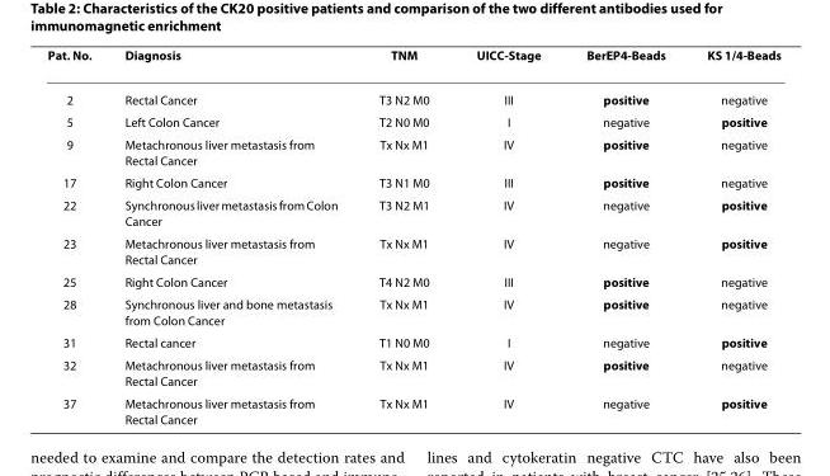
<table><thead><tr><td>Pat. No.</td><td>Diagnosis</td><td>TNM</td><td>UICC-Stage</td><td>BerEP4-Beads</td><td>KS 1/4-Beads</td></tr></thead><tbody><tr><td>2</td><td>Rectal Cancer</td><td>T3 N2 M0</td><td>III</td><td>positive</td><td>negative</td></tr><tr><td>5</td><td>Left Colon Cancer</td><td>T2 N0 M0</td><td>I</td><td>negative</td><td>positive</td></tr><tr><td>9</td><td>Metachronous liver metastasis from Rectal Cancer</td><td>Tx Nx M1</td><td>IV</td><td>positive</td><td>negative</td></tr><tr><td>17</td><td>Right Colon Cancer</td><td>T3 N1 M0</td><td>III</td><td>positive</td><td>negative</td></tr><tr><td>22</td><td>Synchronous liver metastasis from Colon Cancer</td><td>T3 N2 M1</td><td>IV</td><td>negative</td><td>positive</td></tr><tr><td>23</td><td>Metachronous liver metastasis from Rectal Cancer</td><td>Tx Nx M1</td><td>IV</td><td>negative</td><td>positive</td></tr><tr><td>25</td><td>Right Colon Cancer</td><td>T4 N2 M0</td><td>III</td><td>positive</td><td>negative</td></tr><tr><td>28</td><td>Synchronous liver and bone metastasis from Colon Cancer</td><td>Tx Nx M1</td><td>IV</td><td>positive</td><td>negative</td></tr><tr><td>31</td><td>Rectal cancer</td><td>T1 N0 M0</td><td>I</td><td>negative</td><td>positive</td></tr><tr><td>32</td><td>Metachronous liver metastasis from Rectal Cancer</td><td>Tx Nx M1</td><td>IV</td><td>positive</td><td>negative</td></tr><tr><td>37</td><td>Metachronous liver metastasis from Rectal Cancer</td><td>Tx Nx M1</td><td>IV</td><td>negative</td><td>positive</td></tr></tbody></table>